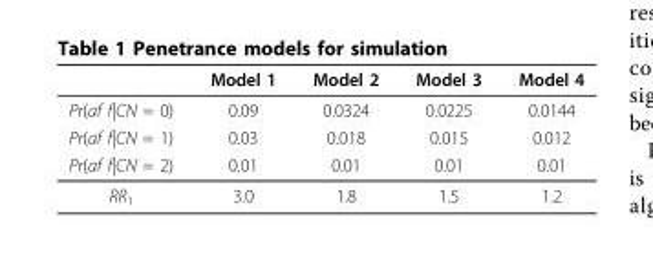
<table><thead><tr><td></td><td>Model 1</td><td>Model 2</td><td>Model 3</td><td>Model 4</td></tr></thead><tbody><tr><td>Pr(af f|CN = 0)</td><td>0.09</td><td>0.0324</td><td>0.0225</td><td>0.0144</td></tr><tr><td>Pr(af f|CN = 1)</td><td>0.03</td><td>0.018</td><td>0.015</td><td>0.012</td></tr><tr><td>Pr(af f|CN = 2)</td><td>0.01</td><td>0.01</td><td>0.01</td><td>0.01</td></tr><tr><td>RR<sub>1</sub></td><td>3.0</td><td>1.8</td><td>1.5</td><td>1.2</td></tr></tbody></table>